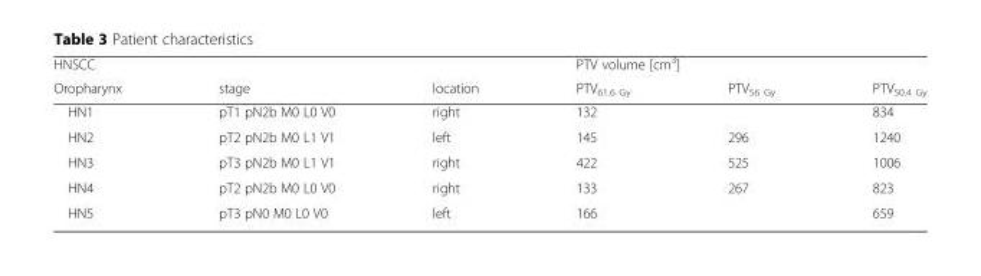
<table><thead><tr><td rowspan="2">HNSCC Oropharynx</td><td rowspan="2">stage</td><td rowspan="2">location</td><td colspan="3">PTV volume [cm<sup>3</sup>]</td></tr><tr><td>PTV<sub>61.6 Gy</sub></td><td>PTV<sub>56 Gy</sub></td><td>PTV<sub>50.4 Gy</sub></td></tr></thead><tbody><tr><td>HN1</td><td>pT1 pN2b M0 L0 V0</td><td>right</td><td>132</td><td></td><td>834</td></tr><tr><td>HN2</td><td>pT2 pN2b M0 L1 V1</td><td>left</td><td>145</td><td>296</td><td>1240</td></tr><tr><td>HN3</td><td>pT3 pN2b M0 L1 V1</td><td>right</td><td>422</td><td>525</td><td>1006</td></tr><tr><td>HN4</td><td>pT2 pN2b M0 L0 V0</td><td>right</td><td>133</td><td>267</td><td>823</td></tr><tr><td>HN5</td><td>pT3 pN0 M0 L0 V0</td><td>left</td><td>166</td><td></td><td>659</td></tr></tbody></table>